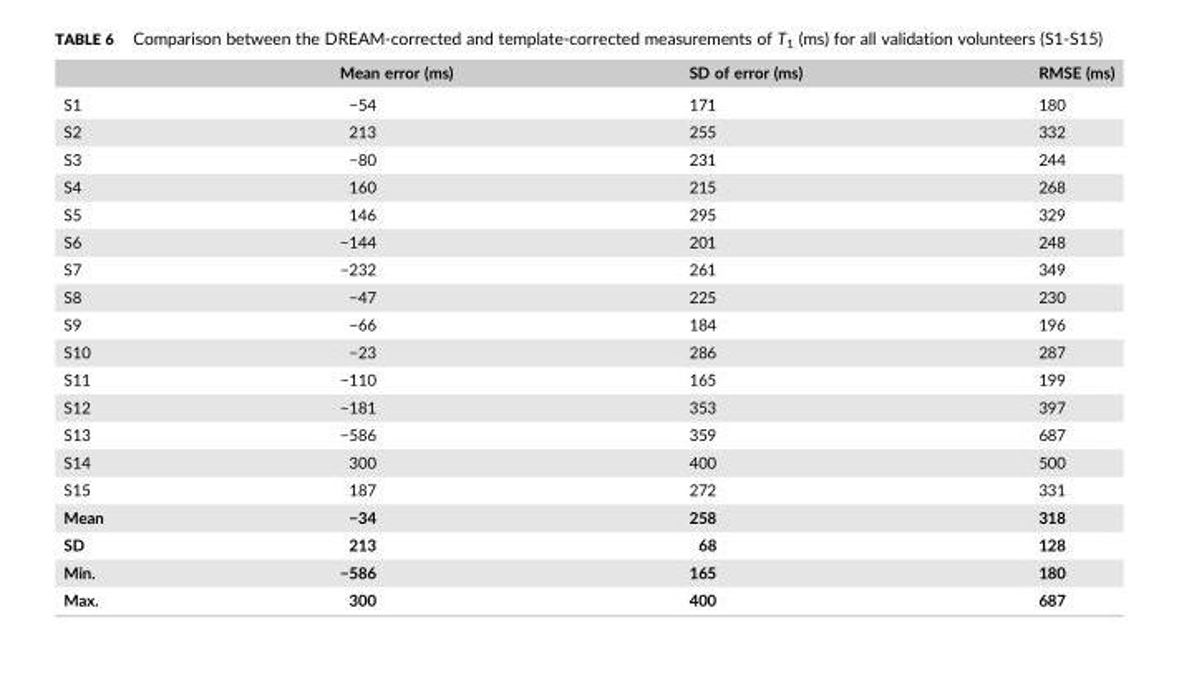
<table><thead><tr><td></td><td>Mean error (ms)</td><td>SD of error (ms)</td><td>RMSE (ms)</td></tr></thead><tbody><tr><td>S1</td><td>−54</td><td>171</td><td>180</td></tr><tr><td>S2</td><td>213</td><td>255</td><td>332</td></tr><tr><td>S3</td><td>−80</td><td>231</td><td>244</td></tr><tr><td>S4</td><td>160</td><td>215</td><td>268</td></tr><tr><td>S5</td><td>146</td><td>295</td><td>329</td></tr><tr><td>S6</td><td>−144</td><td>201</td><td>248</td></tr><tr><td>S7</td><td>−232</td><td>261</td><td>349</td></tr><tr><td>S8</td><td>−47</td><td>225</td><td>230</td></tr><tr><td>S9</td><td>−66</td><td>184</td><td>196</td></tr><tr><td>S10</td><td>−23</td><td>286</td><td>287</td></tr><tr><td>S11</td><td>−110</td><td>165</td><td>199</td></tr><tr><td>S12</td><td>−181</td><td>353</td><td>397</td></tr><tr><td>S13</td><td>−586</td><td>359</td><td>687</td></tr><tr><td>S14</td><td>300</td><td>400</td><td>500</td></tr><tr><td>S15</td><td>187</td><td>272</td><td>331</td></tr><tr><td>Mean</td><td>−34</td><td>258</td><td>318</td></tr><tr><td>SD</td><td>213</td><td>68</td><td>128</td></tr><tr><td>Min.</td><td>−586</td><td>165</td><td>180</td></tr><tr><td>Max.</td><td>300</td><td>400</td><td>687</td></tr></tbody></table>